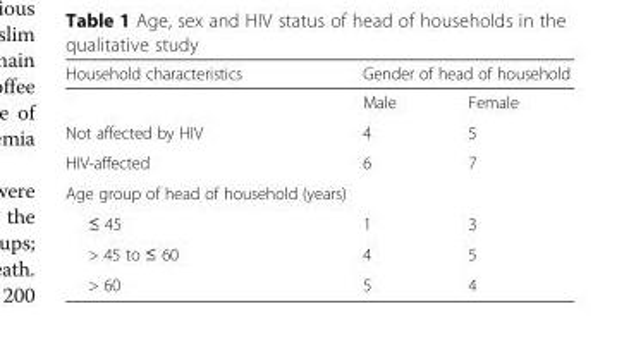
<table><thead><tr><td rowspan="2">Household characteristics</td><td colspan="2">Gender of head of household</td></tr><tr><td>Male</td><td>Female</td></tr></thead><tbody><tr><td>Not affected by HIV</td><td>4</td><td>5</td></tr><tr><td>HIV-affected</td><td>6</td><td>7</td></tr><tr><td colspan="3">Age group of head of household (years)</td></tr><tr><td>≤ 45</td><td>1</td><td>3</td></tr><tr><td>&gt; 45 to ≤ 60</td><td>4</td><td>5</td></tr><tr><td>&gt; 60</td><td>5</td><td>4</td></tr></tbody></table>